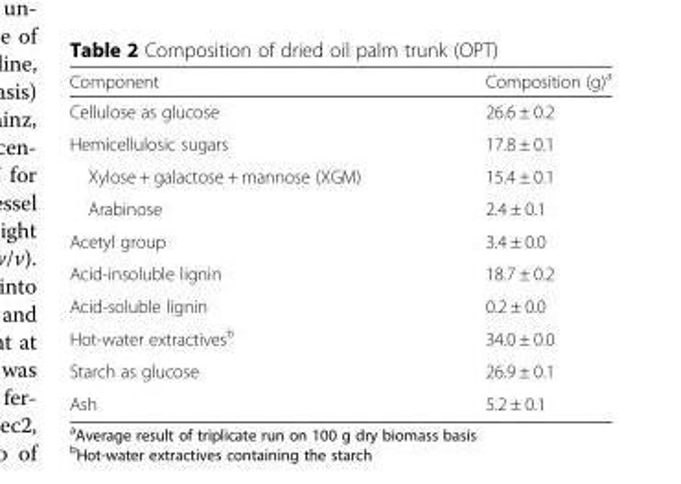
<table><thead><tr><td>Component</td><td>Composition (g)<sup>a</sup></td></tr></thead><tbody><tr><td>Cellulose as glucose</td><td>26.6 ± 0.2</td></tr><tr><td>Hemicellulosic sugars</td><td>17.8 ± 0.1</td></tr><tr><td>Xylose + galactose + mannose (XGM)</td><td>15.4 ± 0.1</td></tr><tr><td>Arabinose</td><td>2.4 ± 0.1</td></tr><tr><td>Acetyl group</td><td>3.4 ± 0.0</td></tr><tr><td>Acid-insoluble lignin</td><td>18.7 ± 0.2</td></tr><tr><td>Acid-soluble lignin</td><td>0.2 ± 0.0</td></tr><tr><td>Hot-water extractives<sup>b</sup></td><td>34.0 ± 0.0</td></tr><tr><td>Starch as glucose</td><td>26.9 ± 0.1</td></tr><tr><td>Ash</td><td>5.2 ± 0.1</td></tr></tbody></table>